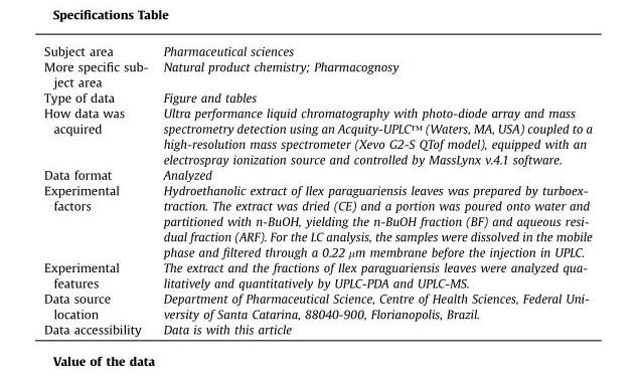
<table><tbody><tr><td>Subject area</td><td>Pharmaceutical sciences</td></tr><tr><td>More specific sub- ject area</td><td>Natural product chemistry; Pharmacognosy</td></tr><tr><td>Type of data</td><td>Figure and tables</td></tr><tr><td>How data was acquired</td><td>Ultra performance liquid chromatography with photo-diode array and mass spectrometry detection using an Acquity-UPLC™ (Waters, MA, USA) coupled to a high-resolution mass spectrometer (Xevo G2-S QTof model), equipped with an electrospray ionization source and controlled by MassLynx v.4.1 software.</td></tr><tr><td>Data format</td><td>Analyzed</td></tr><tr><td>Experimental factors</td><td>Hydroethanolic extract of Ilex paraguariensis leaves was prepared by turboex- traction. The extract was dried (CE) and a portion was poured onto water and partitioned with n-BuOH, yielding the n-BuOH fraction (BF) and aqueous resi- dual fraction (ARF). For the LC analysis, the samples were dissolved in the mobile phase and filtered through a 0.22 mm membrane before the injection in UPLC.</td></tr><tr><td>Experimental features</td><td>The extract and the fractions of Ilex paraguariensis leaves were analyzed qua- litatively and quantitatively by UPLC-PDA and UPLC-MS.</td></tr><tr><td>Data source location</td><td>Department of Pharmaceutical Science, Centre of Health Sciences, Federal Uni- versity of Santa Catarina, 88040-900, Florianopolis, Brazil.</td></tr><tr><td>Data accessibility</td><td>Data is with this article</td></tr></tbody></table>